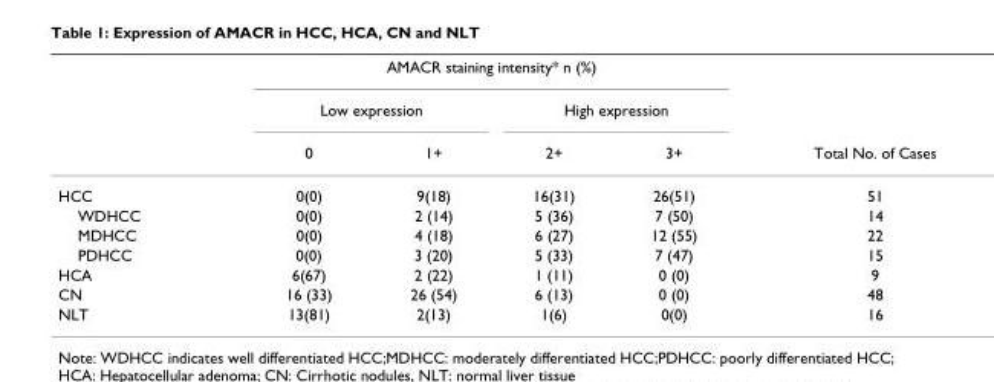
<table><thead><tr><td rowspan="3"></td><td colspan="4">AMACR staining intensity* n (%)</td><td rowspan="3">Total No. of Cases</td></tr><tr><td colspan="2">Low expression</td><td colspan="2">High expression</td></tr><tr><td>0</td><td>1+</td><td>2+</td><td>3+</td></tr></thead><tbody><tr><td>HCC</td><td>0(0)</td><td>9(18)</td><td>16(31)</td><td>26(51)</td><td>51</td></tr><tr><td>WDHCC</td><td>0(0)</td><td>2 (14)</td><td>5 (36)</td><td>7 (50)</td><td>14</td></tr><tr><td>MDHCC</td><td>0(0)</td><td>4 (18)</td><td>6 (27)</td><td>12 (55)</td><td>22</td></tr><tr><td>PDHCC</td><td>0(0)</td><td>3 (20)</td><td>5 (33)</td><td>7 (47)</td><td>15</td></tr><tr><td>HCA</td><td>6(67)</td><td>2 (22)</td><td>1 (11)</td><td>0 (0)</td><td>9</td></tr><tr><td>CN</td><td>16 (33)</td><td>26 (54)</td><td>6 (13)</td><td>0 (0)</td><td>48</td></tr><tr><td>NLT</td><td>13(81)</td><td>2(13)</td><td>1(6)</td><td>0(0)</td><td>16</td></tr></tbody></table>